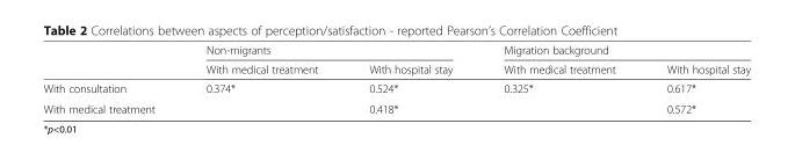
<table><thead><tr><td rowspan="2"></td><td colspan="2">Non-migrants</td><td colspan="2">Migration background</td></tr><tr><td>With medical treatment</td><td>With hospital stay</td><td>With medical treatment</td><td>With hospital stay</td></tr></thead><tbody><tr><td>With consultation</td><td>0.374*</td><td>0.524*</td><td>0.325*</td><td>0.617*</td></tr><tr><td>With medical treatment</td><td></td><td>0.418*</td><td></td><td>0.572*</td></tr></tbody></table>